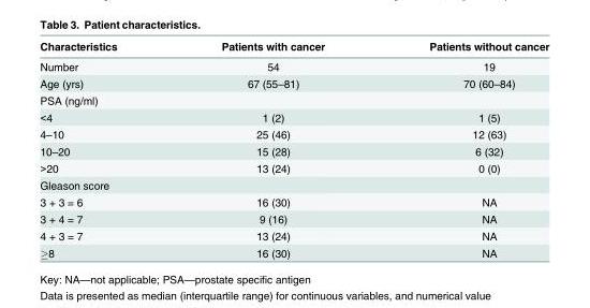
<table><thead><tr><td>Characteristics</td><td>Patients with cancer</td><td>Patients without cancer</td></tr></thead><tbody><tr><td>Number</td><td>54</td><td>19</td></tr><tr><td>Age (yrs)</td><td>67 (55–81)</td><td>70 (60–84)</td></tr><tr><td colspan="3">PSA (ng/ml)</td></tr><tr><td>&lt;4</td><td>1 (2)</td><td>1 (5)</td></tr><tr><td>4–10</td><td>25 (46)</td><td>12 (63)</td></tr><tr><td>10–20</td><td>15 (28)</td><td>6 (32)</td></tr><tr><td>&gt;20</td><td>13 (24)</td><td>0 (0)</td></tr><tr><td colspan="3">Gleason score</td></tr><tr><td>3 + 3 = 6</td><td>16 (30)</td><td>NA</td></tr><tr><td>3 + 4 = 7</td><td>9 (16)</td><td>NA</td></tr><tr><td>4 + 3 = 7</td><td>13 (24)</td><td>NA</td></tr><tr><td>≥8</td><td>16 (30)</td><td>NA</td></tr></tbody></table>